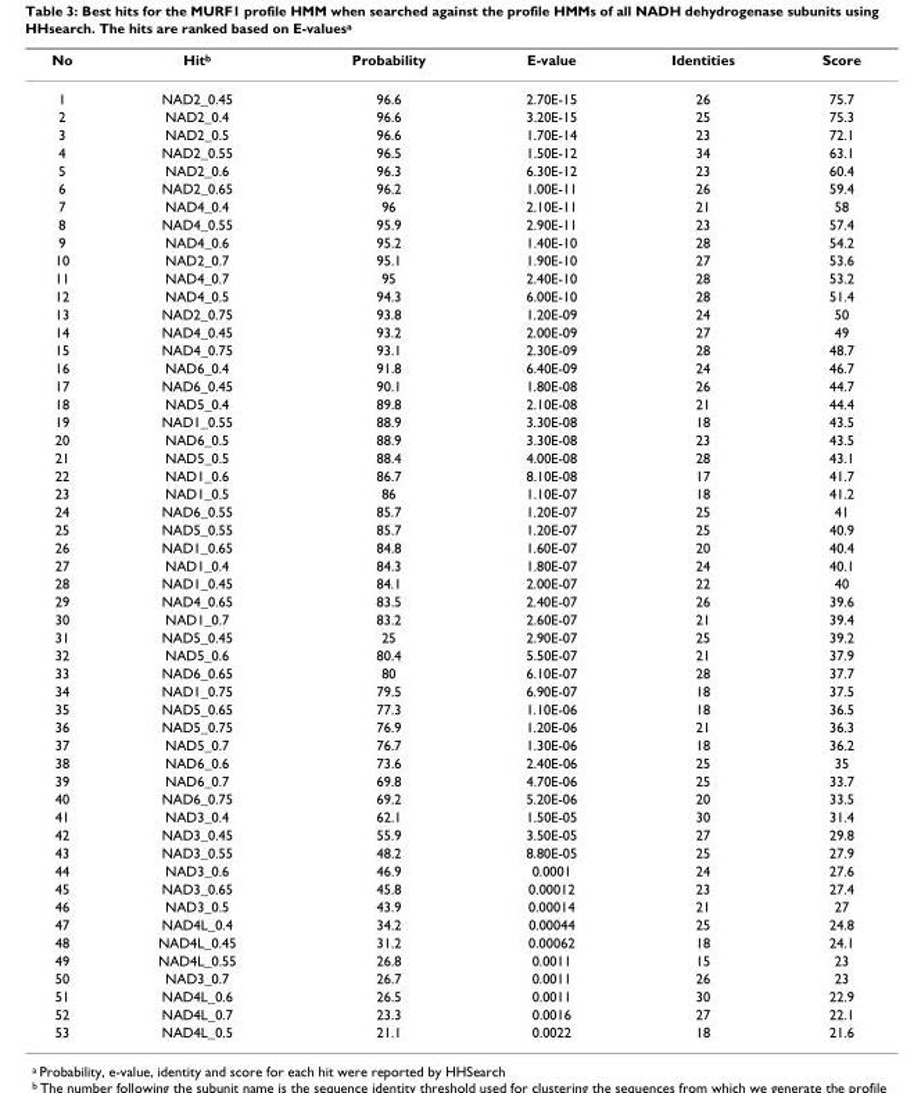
<table><thead><tr><td>No</td><td>Hit<sup>b</sup></td><td>Probability</td><td>E-value</td><td>Identities</td><td>Score</td></tr></thead><tbody><tr><td>1</td><td>NAD2_0.45</td><td>96.6</td><td>2.70E-15</td><td>26</td><td>75.7</td></tr><tr><td>2</td><td>NAD2_0.4</td><td>96.6</td><td>3.20E-15</td><td>25</td><td>75.3</td></tr><tr><td>3</td><td>NAD2_0.5</td><td>96.6</td><td>1.70E-14</td><td>23</td><td>72.1</td></tr><tr><td>4</td><td>NAD2_0.55</td><td>96.5</td><td>1.50E-12</td><td>34</td><td>63.1</td></tr><tr><td>5</td><td>NAD2_0.6</td><td>96.3</td><td>6.30E-12</td><td>23</td><td>60.4</td></tr><tr><td>6</td><td>NAD2_0.65</td><td>96.2</td><td>1.00E-11</td><td>26</td><td>59.4</td></tr><tr><td>7</td><td>NAD4_0.4</td><td>96</td><td>2.10E-11</td><td>21</td><td>58</td></tr><tr><td>8</td><td>NAD4_0.55</td><td>95.9</td><td>2.90E-11</td><td>23</td><td>57.4</td></tr><tr><td>9</td><td>NAD4_0.6</td><td>95.2</td><td>1.40E-10</td><td>28</td><td>54.2</td></tr><tr><td>10</td><td>NAD2_0.7</td><td>95.1</td><td>1.90E-10</td><td>27</td><td>53.6</td></tr><tr><td>11</td><td>NAD4_0.7</td><td>95</td><td>2.40E-10</td><td>28</td><td>53.2</td></tr><tr><td>12</td><td>NAD4_0.5</td><td>94.3</td><td>6.00E-10</td><td>28</td><td>51.4</td></tr><tr><td>13</td><td>NAD2_0.75</td><td>93.8</td><td>1.20E-09</td><td>24</td><td>50</td></tr><tr><td>14</td><td>NAD4_0.45</td><td>93.2</td><td>2.00E-09</td><td>27</td><td>49</td></tr><tr><td>15</td><td>NAD4_0.75</td><td>93.1</td><td>2.30E-09</td><td>28</td><td>48.7</td></tr><tr><td>16</td><td>NAD6_0.4</td><td>91.8</td><td>6.40E-09</td><td>24</td><td>46.7</td></tr><tr><td>17</td><td>NAD6_0.45</td><td>90.1</td><td>1.80E-08</td><td>26</td><td>44.7</td></tr><tr><td>18</td><td>NAD5_0.4</td><td>89.8</td><td>2.10E-08</td><td>21</td><td>44.4</td></tr><tr><td>19</td><td>NAD1_0.55</td><td>88.9</td><td>3.30E-08</td><td>18</td><td>43.5</td></tr><tr><td>20</td><td>NAD6_0.5</td><td>88.9</td><td>3.30E-08</td><td>23</td><td>43.5</td></tr><tr><td>21</td><td>NAD5_0.5</td><td>88.4</td><td>4.00E-08</td><td>28</td><td>43.1</td></tr><tr><td>22</td><td>NAD1_0.6</td><td>86.7</td><td>8.10E-08</td><td>17</td><td>41.7</td></tr><tr><td>23</td><td>NAD1_0.5</td><td>86</td><td>1.10E-07</td><td>18</td><td>41.2</td></tr><tr><td>24</td><td>NAD6_0.55</td><td>85.7</td><td>1.20E-07</td><td>25</td><td>41</td></tr><tr><td>25</td><td>NAD5_0.55</td><td>85.7</td><td>1.20E-07</td><td>25</td><td>40.9</td></tr><tr><td>26</td><td>NAD1_0.65</td><td>84.8</td><td>1.60E-07</td><td>20</td><td>40.4</td></tr><tr><td>27</td><td>NAD1_0.4</td><td>84.3</td><td>1.80E-07</td><td>24</td><td>40.1</td></tr><tr><td>28</td><td>NAD1_0.45</td><td>84.1</td><td>2.00E-07</td><td>22</td><td>40</td></tr><tr><td>29</td><td>NAD4_0.65</td><td>83.5</td><td>2.40E-07</td><td>26</td><td>39.6</td></tr><tr><td>30</td><td>NAD1_0.7</td><td>83.2</td><td>2.60E-07</td><td>21</td><td>39.4</td></tr><tr><td>31</td><td>NAD5_0.45</td><td>25</td><td>2.90E-07</td><td>25</td><td>39.2</td></tr><tr><td>32</td><td>NAD5_0.6</td><td>80.4</td><td>5.50E-07</td><td>21</td><td>37.9</td></tr><tr><td>33</td><td>NAD6_0.65</td><td>80</td><td>6.10E-07</td><td>28</td><td>37.7</td></tr><tr><td>34</td><td>NAD1_0.75</td><td>79.5</td><td>6.90E-07</td><td>18</td><td>37.5</td></tr><tr><td>35</td><td>NAD5_0.65</td><td>77.3</td><td>1.10E-06</td><td>18</td><td>36.5</td></tr><tr><td>36</td><td>NAD5_0.75</td><td>76.9</td><td>1.20E-06</td><td>21</td><td>36.3</td></tr><tr><td>37</td><td>NAD5_0.7</td><td>76.7</td><td>1.30E-06</td><td>18</td><td>36.2</td></tr><tr><td>38</td><td>NAD6_0.6</td><td>73.6</td><td>2.40E-06</td><td>25</td><td>35</td></tr><tr><td>39</td><td>NAD6_0.7</td><td>69.8</td><td>4.70E-06</td><td>25</td><td>33.7</td></tr><tr><td>40</td><td>NAD6_0.75</td><td>69.2</td><td>5.20E-06</td><td>20</td><td>33.5</td></tr><tr><td>41</td><td>NAD3_0.4</td><td>62.1</td><td>1.50E-05</td><td>30</td><td>31.4</td></tr><tr><td>42</td><td>NAD3_0.45</td><td>55.9</td><td>3.50E-05</td><td>27</td><td>29.8</td></tr><tr><td>43</td><td>NAD3_0.55</td><td>48.2</td><td>8.80E-05</td><td>25</td><td>27.9</td></tr><tr><td>44</td><td>NAD3_0.6</td><td>46.9</td><td>0.0001</td><td>24</td><td>27.6</td></tr><tr><td>45</td><td>NAD3_0.65</td><td>45.8</td><td>0.00012</td><td>23</td><td>27.4</td></tr><tr><td>46</td><td>NAD3_0.5</td><td>43.9</td><td>0.00014</td><td>21</td><td>27</td></tr><tr><td>47</td><td>NAD4L_0.4</td><td>34.2</td><td>0.00044</td><td>25</td><td>24.8</td></tr><tr><td>48</td><td>NAD4L_0.45</td><td>31.2</td><td>0.00062</td><td>18</td><td>24.1</td></tr><tr><td>49</td><td>NAD4L_0.55</td><td>26.8</td><td>0.0011</td><td>15</td><td>23</td></tr><tr><td>50</td><td>NAD3_0.7</td><td>26.7</td><td>0.0011</td><td>26</td><td>23</td></tr><tr><td>51</td><td>NAD4L_0.6</td><td>26.5</td><td>0.0011</td><td>30</td><td>22.9</td></tr><tr><td>52</td><td>NAD4L_0.7</td><td>23.3</td><td>0.0016</td><td>27</td><td>22.1</td></tr><tr><td>53</td><td>NAD4L_0.5</td><td>21.1</td><td>0.0022</td><td>18</td><td>21.6</td></tr></tbody></table>